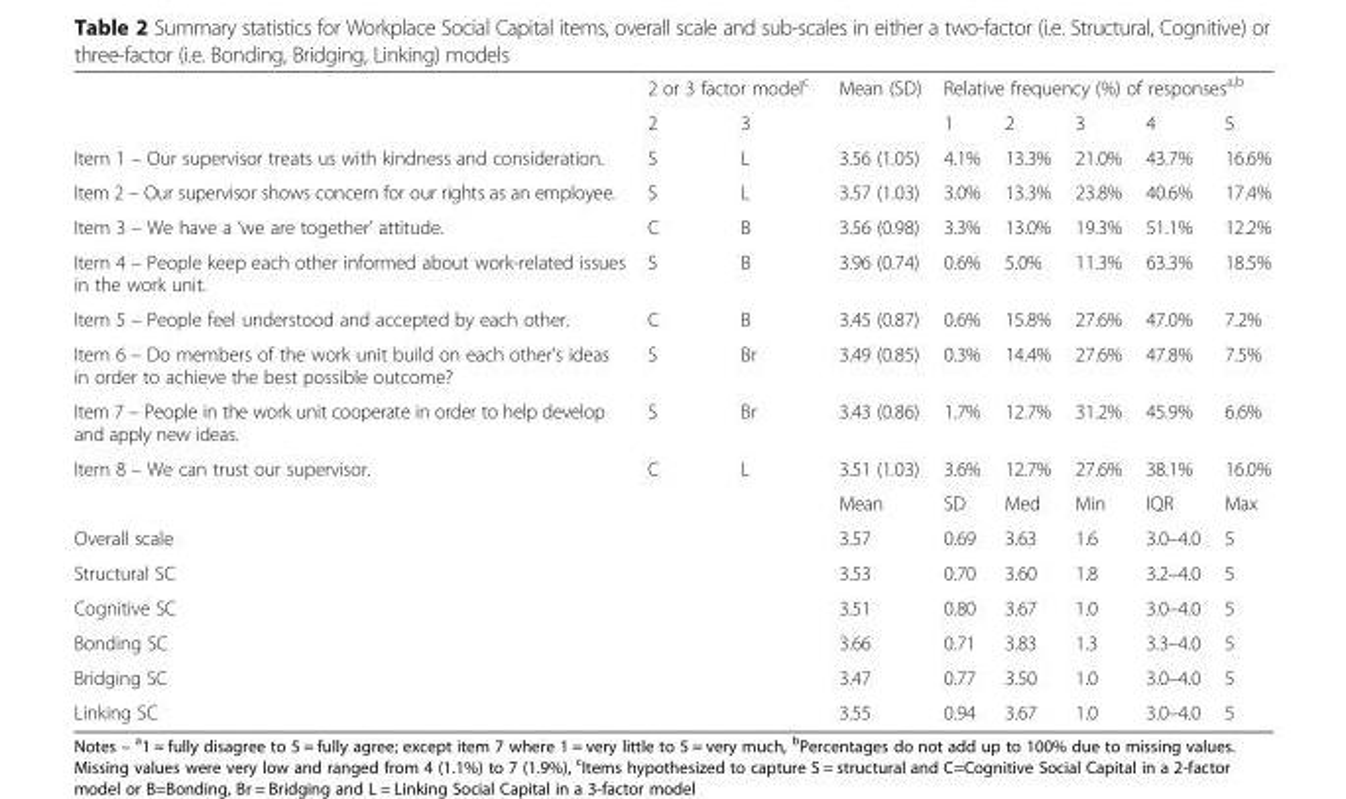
<table><thead><tr><td rowspan="2"></td><td colspan="2">2 or 3 factor model<sup>c</sup></td><td rowspan="2">Mean (SD)</td><td colspan="5">Relative frequency (%) of responses<sup>a,b</sup></td></tr><tr><td>2</td><td>3</td><td>1</td><td>2</td><td>3</td><td>4</td><td>5</td></tr></thead><tbody><tr><td>Item 1 – Our supervisor treats us with kindness and consideration.</td><td>S</td><td>L</td><td>3.56 (1.05)</td><td>4.1%</td><td>13.3%</td><td>21.0%</td><td>43.7%</td><td>16.6%</td></tr><tr><td>Item 2 – Our supervisor shows concern for our rights as an employee.</td><td>S</td><td>L</td><td>3.57 (1.03)</td><td>3.0%</td><td>13.3%</td><td>23.8%</td><td>40.6%</td><td>17.4%</td></tr><tr><td>Item 3 – We have a ‘we are together’ attitude.</td><td>C</td><td>B</td><td>3.56 (0.98)</td><td>3.3%</td><td>13.0%</td><td>19.3%</td><td>51.1%</td><td>12.2%</td></tr><tr><td>Item 4 – People keep each other informed about work-related issues in the work unit.</td><td>S</td><td>B</td><td>3.96 (0.74)</td><td>0.6%</td><td>5.0%</td><td>11.3%</td><td>63.3%</td><td>18.5%</td></tr><tr><td>Item 5 – People feel understood and accepted by each other.</td><td>C</td><td>B</td><td>3.45 (0.87)</td><td>0.6%</td><td>15.8%</td><td>27.6%</td><td>47.0%</td><td>7.2%</td></tr><tr><td>Item 6 – Do members of the work unit build on each other’s ideas in order to achieve the best possible outcome?</td><td>S</td><td>Br</td><td>3.49 (0.85)</td><td>0.3%</td><td>14.4%</td><td>27.6%</td><td>47.8%</td><td>7.5%</td></tr><tr><td>Item 7 – People in the work unit cooperate in order to help develop and apply new ideas.</td><td>S</td><td>Br</td><td>3.43 (0.86)</td><td>1.7%</td><td>12.7%</td><td>31.2%</td><td>45.9%</td><td>6.6%</td></tr><tr><td>Item 8 – We can trust our supervisor.</td><td>C</td><td>L</td><td>3.51 (1.03)</td><td>3.6%</td><td>12.7%</td><td>27.6%</td><td>38.1%</td><td>16.0%</td></tr><tr><td colspan="3"></td><td>Mean</td><td>SD</td><td>Med</td><td>Min</td><td>IQR</td><td>Max</td></tr><tr><td>Overall scale</td><td colspan="2"></td><td>3.57</td><td>0.69</td><td>3.63</td><td>1.6</td><td>3.0–4.0</td><td>5</td></tr><tr><td>Structural SC</td><td colspan="2"></td><td>3.53</td><td>0.70</td><td>3.60</td><td>1.8</td><td>3.2–4.0</td><td>5</td></tr><tr><td>Cognitive SC</td><td colspan="2"></td><td>3.51</td><td>0.80</td><td>3.67</td><td>1.0</td><td>3.0–4.0</td><td>5</td></tr><tr><td>Bonding SC</td><td colspan="2"></td><td>3.66</td><td>0.71</td><td>3.83</td><td>1.3</td><td>3.3–4.0</td><td>5</td></tr><tr><td>Bridging SC</td><td colspan="2"></td><td>3.47</td><td>0.77</td><td>3.50</td><td>1.0</td><td>3.0–4.0</td><td>5</td></tr><tr><td>Linking SC</td><td colspan="2"></td><td>3.55</td><td>0.94</td><td>3.67</td><td>1.0</td><td>3.0–4.0</td><td>5</td></tr></tbody></table>